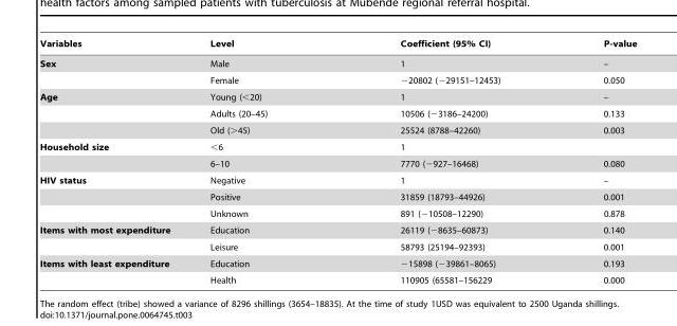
<table><thead><tr><td>Variables</td><td>Level</td><td>Coefficient (95% CI)</td><td>P-value</td></tr></thead><tbody><tr><td rowspan="2">Sex</td><td>Male</td><td>1</td><td>–</td></tr><tr><td>Female</td><td>−20802 (−29151–12453)</td><td>0.050</td></tr><tr><td rowspan="3">Age</td><td>Young (&lt;20)</td><td>1</td><td>–</td></tr><tr><td>Adults (20–45)</td><td>10506 (−3186–24200)</td><td>0.133</td></tr><tr><td>Old (&gt;45)</td><td>25524 (8788–42260)</td><td>0.003</td></tr><tr><td rowspan="2">Household size</td><td>&lt;6</td><td>1</td><td></td></tr><tr><td>6–10</td><td>7770 (−927–16468)</td><td>0.080</td></tr><tr><td rowspan="3">HIV status</td><td>Negative</td><td>1</td><td>–</td></tr><tr><td>Positive</td><td>31859 (18793–44926)</td><td>0.001</td></tr><tr><td>Unknown</td><td>891 (−10508–12290)</td><td>0.878</td></tr><tr><td rowspan="2">Items with most expenditure</td><td>Education</td><td>26119 (−8635–60873)</td><td>0.140</td></tr><tr><td>Leisure</td><td>58793 (25194–92393)</td><td>0.001</td></tr><tr><td rowspan="2">Items with least expenditure</td><td>Education</td><td>−15898 (−39861–8065)</td><td>0.193</td></tr><tr><td>Health</td><td>110905 (65581–156229</td><td>0.000</td></tr></tbody></table>